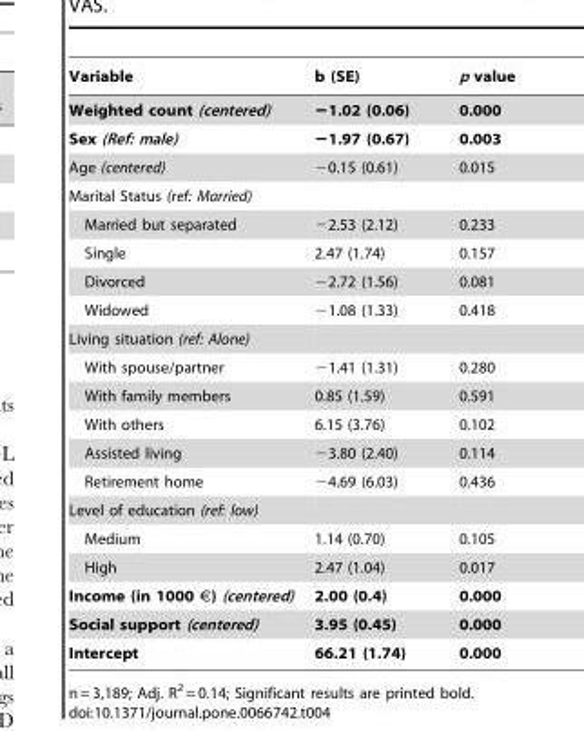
<table><thead><tr><td>Variable</td><td>b (SE)</td><td>p value</td></tr></thead><tbody><tr><td>Weighted count (centered)</td><td>−1.02 (0.06)</td><td>0.000</td></tr><tr><td>Sex (Ref: male)</td><td>−1.97 (0.67)</td><td>0.003</td></tr><tr><td>Age (centered)</td><td>−0.15 (0.61)</td><td>0.015</td></tr><tr><td colspan="3">Marital Status (ref: Married)</td></tr><tr><td>Married but separated</td><td>−2.53 (2.12)</td><td>0.233</td></tr><tr><td>Single</td><td>2.47 (1.74)</td><td>0.157</td></tr><tr><td>Divorced</td><td>−2.72 (1.56)</td><td>0.081</td></tr><tr><td>Widowed</td><td>−1.08 (1.33)</td><td>0.418</td></tr><tr><td colspan="3">Living situation (ref: Alone)</td></tr><tr><td>With spouse/partner</td><td>−1.41 (1.31)</td><td>0.280</td></tr><tr><td>With family members</td><td>0.85 (1.59)</td><td>0.591</td></tr><tr><td>With others</td><td>6.15 (3.76)</td><td>0.102</td></tr><tr><td>Assisted living</td><td>−3.80 (2.40)</td><td>0.114</td></tr><tr><td>Retirement home</td><td>−4.69 (6.03)</td><td>0.436</td></tr><tr><td colspan="3">Level of education (ref: low)</td></tr><tr><td>Medium</td><td>1.14 (0.70)</td><td>0.105</td></tr><tr><td>High</td><td>2.47 (1.04)</td><td>0.017</td></tr><tr><td>Income (in 1000 €) (centered)</td><td>2.00 (0.4)</td><td>0.000</td></tr><tr><td>Social support (centered)</td><td>3.95 (0.45)</td><td>0.000</td></tr><tr><td>Intercept</td><td>66.21 (1.74)</td><td>0.000</td></tr></tbody></table>